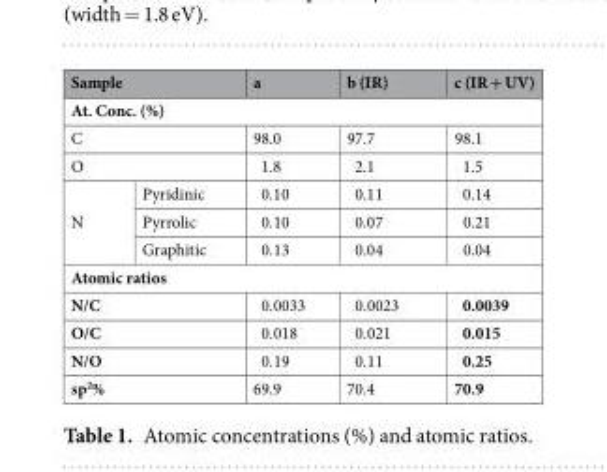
<table><thead><tr><td colspan="2">Sample</td><td>a</td><td>b (IR)</td><td>c (IR + UV)</td></tr></thead><tbody><tr><td colspan="5">At. Conc. (%)</td></tr><tr><td colspan="2">C</td><td>98.0</td><td>97.7</td><td>98.1</td></tr><tr><td colspan="2">O</td><td>1.8</td><td>2.1</td><td>1.5</td></tr><tr><td rowspan="3">N</td><td>Pyridinic</td><td>0.10</td><td>0.11</td><td>0.14</td></tr><tr><td>Pyrrolic</td><td>0.10</td><td>0.07</td><td>0.21</td></tr><tr><td>Graphitic</td><td>0.13</td><td>0.04</td><td>0.04</td></tr><tr><td colspan="5">Atomic ratios</td></tr><tr><td colspan="2">N/C</td><td>0.0033</td><td>0.0023</td><td>0.0039</td></tr><tr><td colspan="2">O/C</td><td>0.018</td><td>0.021</td><td>0.015</td></tr><tr><td colspan="2">N/O</td><td>0.19</td><td>0.11</td><td>0.25</td></tr><tr><td colspan="2">sp<sup>2</sup>%</td><td>69.9</td><td>70.4</td><td>70.9</td></tr></tbody></table>